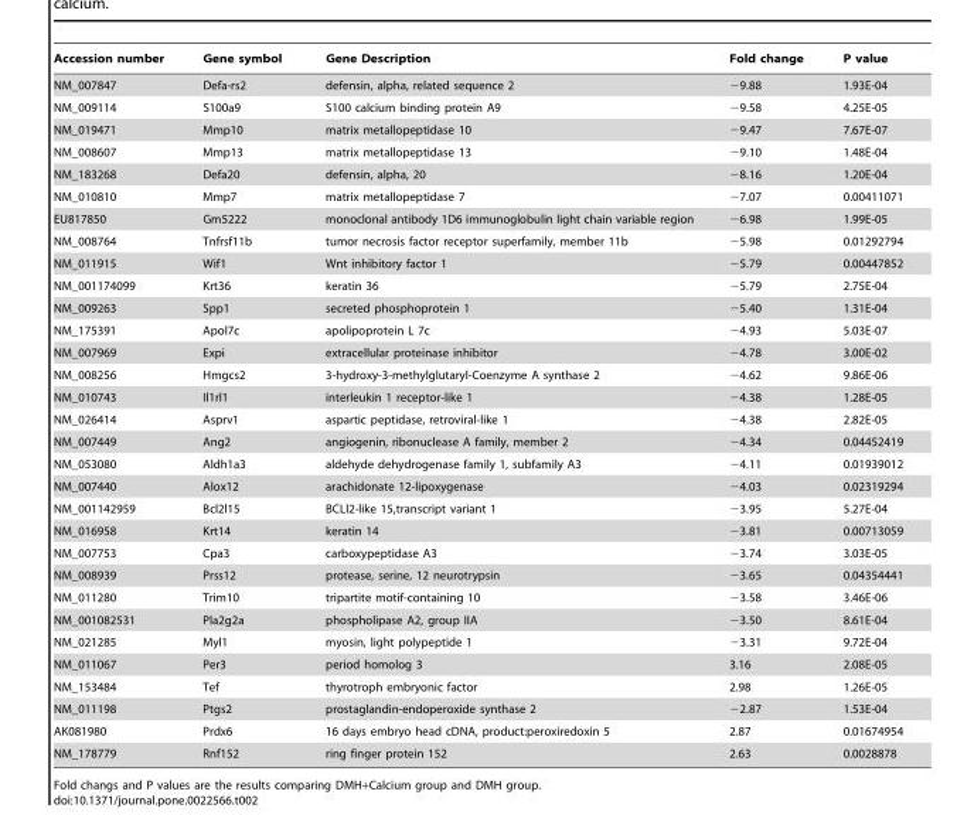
<table><thead><tr><td>Accession number</td><td>Gene symbol</td><td>Gene Description</td><td>Fold change</td><td>P value</td></tr></thead><tbody><tr><td>NM_007847</td><td>Defa-rs2</td><td>defensin, alpha, related sequence 2</td><td>−9.88</td><td>1.93E-04</td></tr><tr><td>NM_009114</td><td>S100a9</td><td>S100 calcium binding protein A9</td><td>−9.58</td><td>4.25E-05</td></tr><tr><td>NM_019471</td><td>Mmp10</td><td>matrix metallopeptidase 10</td><td>−9.47</td><td>7.67E-07</td></tr><tr><td>NM_008607</td><td>Mmp13</td><td>matrix metallopeptidase 13</td><td>−9.10</td><td>1.48E-04</td></tr><tr><td>NM_183268</td><td>Defa20</td><td>defensin, alpha, 20</td><td>−8.16</td><td>1.20E-04</td></tr><tr><td>NM_010810</td><td>Mmp7</td><td>matrix metallopeptidase 7</td><td>−7.07</td><td>0.00411071</td></tr><tr><td>EU817850</td><td>Gm5222</td><td>monoclonal antibody 1D6 immunoglobulin light chain variable region</td><td>−6.98</td><td>1.99E-05</td></tr><tr><td>NM_008764</td><td>Tnfrsf11b</td><td>tumor necrosis factor receptor superfamily, member 11b</td><td>−5.98</td><td>0.01292794</td></tr><tr><td>NM_011915</td><td>Wif1</td><td>Wnt inhibitory factor 1</td><td>−5.79</td><td>0.00447852</td></tr><tr><td>NM_001174099</td><td>Krt36</td><td>keratin 36</td><td>−5.79</td><td>2.75E-04</td></tr><tr><td>NM_009263</td><td>Spp1</td><td>secreted phosphoprotein 1</td><td>−5.40</td><td>1.31E-04</td></tr><tr><td>NM_175391</td><td>Apol7c</td><td>apolipoprotein L 7c</td><td>−4.93</td><td>5.03E-07</td></tr><tr><td>NM_007969</td><td>Expi</td><td>extracellular proteinase inhibitor</td><td>−4.78</td><td>3.00E-02</td></tr><tr><td>NM_008256</td><td>Hmgcs2</td><td>3-hydroxy-3-methylglutaryl-Coenzyme A synthase 2</td><td>−4.62</td><td>9.86E-06</td></tr><tr><td>NM_010743</td><td>Il1rl1</td><td>interleukin 1 receptor-like 1</td><td>−4.38</td><td>1.28E-05</td></tr><tr><td>NM_026414</td><td>Asprv1</td><td>aspartic peptidase, retroviral-like 1</td><td>−4.38</td><td>2.82E-05</td></tr><tr><td>NM_007449</td><td>Ang2</td><td>angiogenin, ribonuclease A family, member 2</td><td>−4.34</td><td>0.04452419</td></tr><tr><td>NM_053080</td><td>Aldh1a3</td><td>aldehyde dehydrogenase family 1, subfamily A3</td><td>−4.11</td><td>0.01939012</td></tr><tr><td>NM_007440</td><td>Alox12</td><td>arachidonate 12-lipoxygenase</td><td>−4.03</td><td>0.02319294</td></tr><tr><td>NM_001142959</td><td>Bcl2l15</td><td>BCLl2-like 15,transcript variant 1</td><td>−3.95</td><td>5.27E-04</td></tr><tr><td>NM_016958</td><td>Krt14</td><td>keratin 14</td><td>−3.81</td><td>0.00713059</td></tr><tr><td>NM_007753</td><td>Cpa3</td><td>carboxypeptidase A3</td><td>−3.74</td><td>3.03E-05</td></tr><tr><td>NM_008939</td><td>Prss12</td><td>protease, serine, 12 neurotrypsin</td><td>−3.65</td><td>0.04354441</td></tr><tr><td>NM_011280</td><td>Trim10</td><td>tripartite motif-containing 10</td><td>−3.58</td><td>3.46E-06</td></tr><tr><td>NM_001082531</td><td>Pla2g2a</td><td>phospholipase A2, group IIA</td><td>−3.50</td><td>8.61E-04</td></tr><tr><td>NM_021285</td><td>Myl1</td><td>myosin, light polypeptide 1</td><td>−3.31</td><td>9.72E-04</td></tr><tr><td>NM_011067</td><td>Per3</td><td>period homolog 3</td><td>3.16</td><td>2.08E-05</td></tr><tr><td>NM_153484</td><td>Tef</td><td>thyrotroph embryonic factor</td><td>2.98</td><td>1.26E-05</td></tr><tr><td>NM_011198</td><td>Ptgs2</td><td>prostaglandin-endoperoxide synthase 2</td><td>−2.87</td><td>1.53E-04</td></tr><tr><td>AK081980</td><td>Prdx6</td><td>16 days embryo head cDNA, product:peroxiredoxin 5</td><td>2.87</td><td>0.01674954</td></tr><tr><td>NM_178779</td><td>Rnf152</td><td>ring finger protein 152</td><td>2.63</td><td>0.0028878</td></tr></tbody></table>